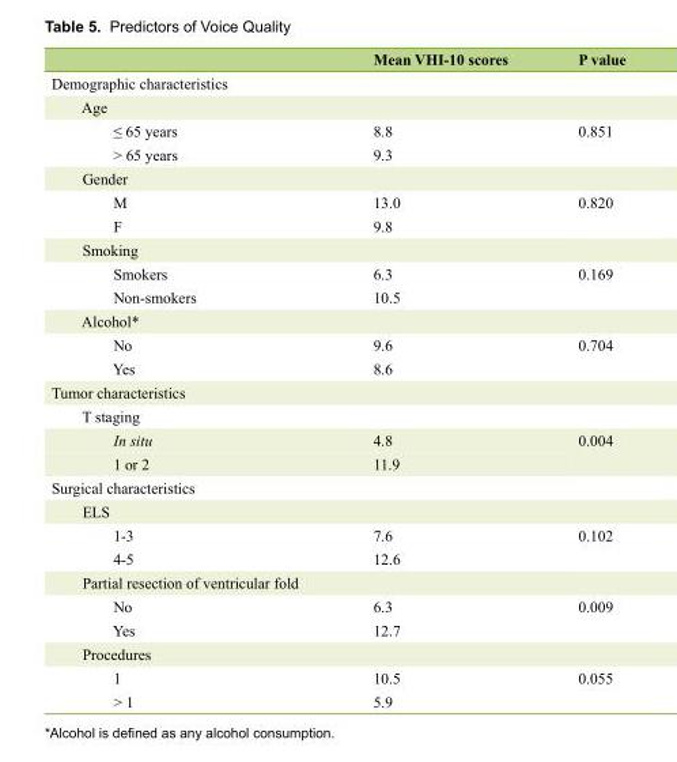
<table><thead><tr><td></td><td>Mean VHI-10 scores</td><td>P value</td></tr></thead><tbody><tr><td colspan="3">Demographic characteristics</td></tr><tr><td colspan="3">Age</td></tr><tr><td>≤ 65 years</td><td>8.8</td><td rowspan="2">0.851</td></tr><tr><td>&gt; 65 years</td><td>9.3</td></tr><tr><td colspan="3">Gender</td></tr><tr><td>M</td><td>13.0</td><td rowspan="2">0.820</td></tr><tr><td>F</td><td>9.8</td></tr><tr><td colspan="3">Smoking</td></tr><tr><td>Smokers</td><td>6.3</td><td rowspan="2">0.169</td></tr><tr><td>Non-smokers</td><td>10.5</td></tr><tr><td colspan="3">Alcohol*</td></tr><tr><td>No</td><td>9.6</td><td rowspan="2">0.704</td></tr><tr><td>Yes</td><td>8.6</td></tr><tr><td colspan="3">Tumor characteristics</td></tr><tr><td colspan="3">T staging</td></tr><tr><td>In situ</td><td>4.8</td><td rowspan="2">0.004</td></tr><tr><td>1 or 2</td><td>11.9</td></tr><tr><td colspan="3">Surgical characteristics</td></tr><tr><td colspan="3">ELS</td></tr><tr><td>1-3</td><td>7.6</td><td rowspan="2">0.102</td></tr><tr><td>4-5</td><td>12.6</td></tr><tr><td colspan="3">Partial resection of ventricular fold</td></tr><tr><td>No</td><td>6.3</td><td rowspan="2">0.009</td></tr><tr><td>Yes</td><td>12.7</td></tr><tr><td colspan="3">Procedures</td></tr><tr><td>1</td><td>10.5</td><td rowspan="2">0.055</td></tr><tr><td>&gt; 1</td><td>5.9</td></tr></tbody></table>